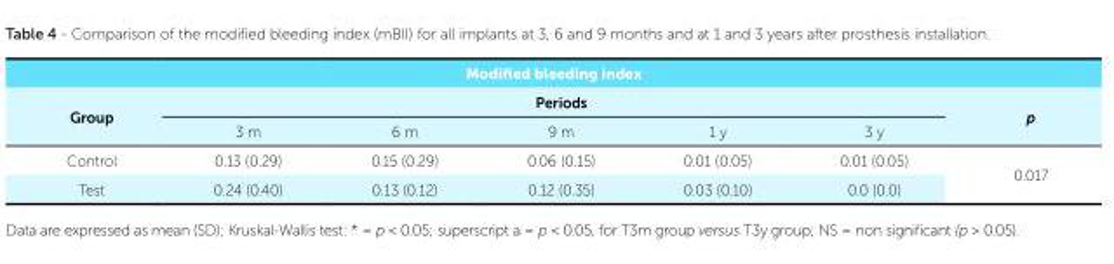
<table><tbody><tr><td colspan="7">Modified bleeding index</td></tr><tr><td rowspan="2">Group</td><td colspan="5">Periods</td><td rowspan="2">p</td></tr><tr><td>3 m</td><td>6 m</td><td>9 m</td><td>1 y</td><td>3 y</td></tr><tr><td>Control</td><td>0.13 (0.29)</td><td>0.15 (0.29)</td><td>0.06 (0.15)</td><td>0.01 (0.05)</td><td>0.01 (0.05)</td><td rowspan="2">0.017</td></tr><tr><td>Test</td><td>0.24 (0.40)</td><td>0.13 (0.12)</td><td>0.12 (0.35)</td><td>0.03 (0.10)</td><td>0.0 (0.0)</td></tr></tbody></table>